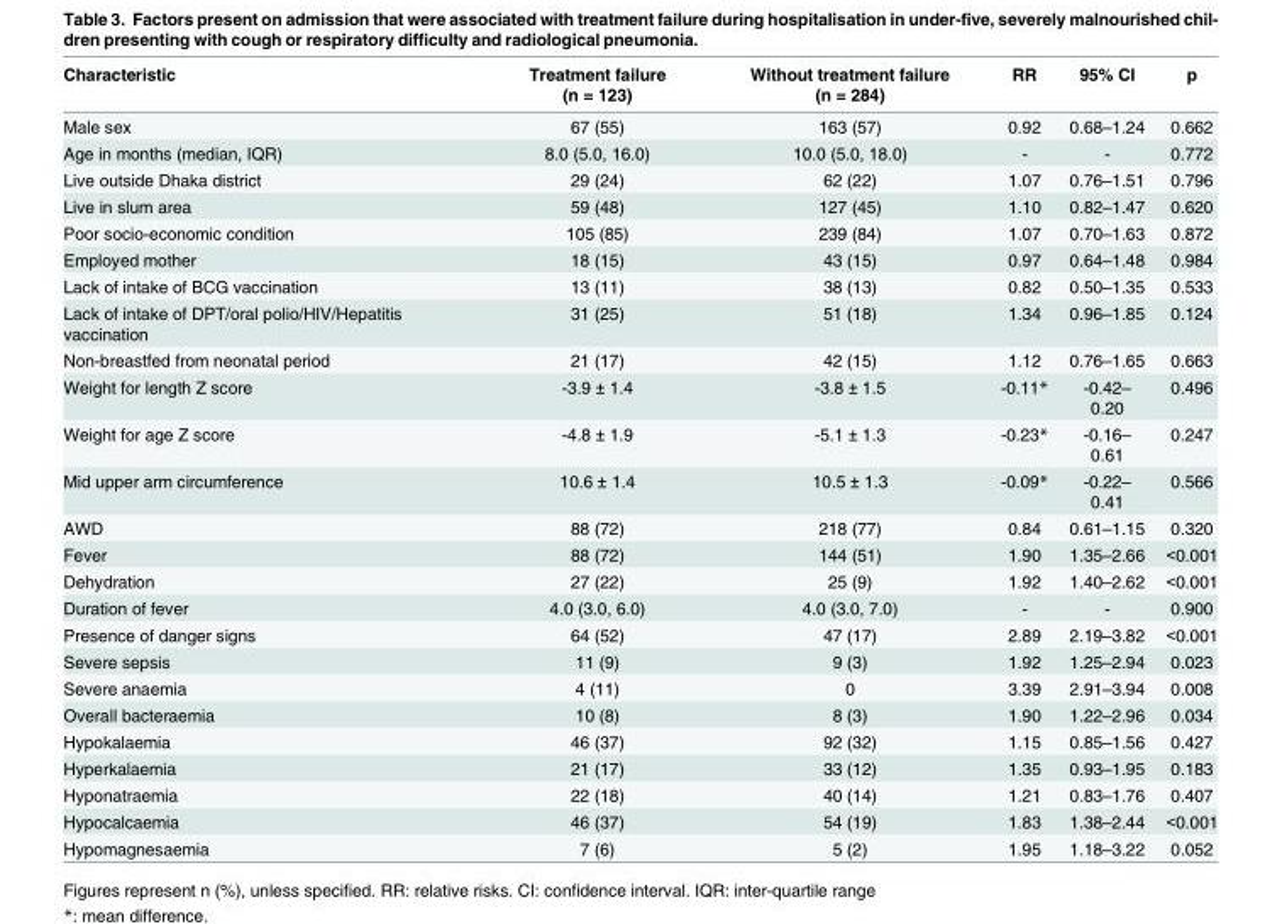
<table><thead><tr><td>Characteristic</td><td>Treatment failure (n = 123)</td><td>Without treatment failure (n = 284)</td><td>RR</td><td>95% CI</td><td>p</td></tr></thead><tbody><tr><td>Male sex</td><td>67 (55)</td><td>163 (57)</td><td>0.92</td><td>0.68–1.24</td><td>0.662</td></tr><tr><td>Age in months (median, IQR)</td><td>8.0 (5.0, 16.0)</td><td>10.0 (5.0, 18.0)</td><td>-</td><td>-</td><td>0.772</td></tr><tr><td>Live outside Dhaka district</td><td>29 (24)</td><td>62 (22)</td><td>1.07</td><td>0.76–1.51</td><td>0.796</td></tr><tr><td>Live in slum area</td><td>59 (48)</td><td>127 (45)</td><td>1.10</td><td>0.82–1.47</td><td>0.620</td></tr><tr><td>Poor socio-economic condition</td><td>105 (85)</td><td>239 (84)</td><td>1.07</td><td>0.70–1.63</td><td>0.872</td></tr><tr><td>Employed mother</td><td>18 (15)</td><td>43 (15)</td><td>0.97</td><td>0.64–1.48</td><td>0.984</td></tr><tr><td>Lack of intake of BCG vaccination</td><td>13 (11)</td><td>38 (13)</td><td>0.82</td><td>0.50–1.35</td><td>0.533</td></tr><tr><td>Lack of intake of DPT/oral polio/HIV/Hepatitis vaccination</td><td>31 (25)</td><td>51 (18)</td><td>1.34</td><td>0.96–1.85</td><td>0.124</td></tr><tr><td>Non-breastfed from neonatal period</td><td>21 (17)</td><td>42 (15)</td><td>1.12</td><td>0.76–1.65</td><td>0.663</td></tr><tr><td>Weight for length Z score</td><td>-3.9 ± 1.4</td><td>-3.8 ± 1.5</td><td>-0.11*</td><td>-0.42– 0.20</td><td>0.496</td></tr><tr><td>Weight for age Z score</td><td>-4.8 ± 1.9</td><td>-5.1 ± 1.3</td><td>-0.23*</td><td>-0.16– 0.61</td><td>0.247</td></tr><tr><td>Mid upper arm circumference</td><td>10.6 ± 1.4</td><td>10.5 ± 1.3</td><td>-0.09*</td><td>-0.22– 0.41</td><td>0.566</td></tr><tr><td>AWD</td><td>88 (72)</td><td>218 (77)</td><td>0.84</td><td>0.61–1.15</td><td>0.320</td></tr><tr><td>Fever</td><td>88 (72)</td><td>144 (51)</td><td>1.90</td><td>1.35–2.66</td><td>&lt;0.001</td></tr><tr><td>Dehydration</td><td>27 (22)</td><td>25 (9)</td><td>1.92</td><td>1.40–2.62</td><td>&lt;0.001</td></tr><tr><td>Duration of fever</td><td>4.0 (3.0, 6.0)</td><td>4.0 (3.0, 7.0)</td><td>-</td><td>-</td><td>0.900</td></tr><tr><td>Presence of danger signs</td><td>64 (52)</td><td>47 (17)</td><td>2.89</td><td>2.19–3.82</td><td>&lt;0.001</td></tr><tr><td>Severe sepsis</td><td>11 (9)</td><td>9 (3)</td><td>1.92</td><td>1.25–2.94</td><td>0.023</td></tr><tr><td>Severe anaemia</td><td>4 (11)</td><td>0</td><td>3.39</td><td>2.91–3.94</td><td>0.008</td></tr><tr><td>Overall bacteraemia</td><td>10 (8)</td><td>8 (3)</td><td>1.90</td><td>1.22–2.96</td><td>0.034</td></tr><tr><td>Hypokalaemia</td><td>46 (37)</td><td>92 (32)</td><td>1.15</td><td>0.85–1.56</td><td>0.427</td></tr><tr><td>Hyperkalaemia</td><td>21 (17)</td><td>33 (12)</td><td>1.35</td><td>0.93–1.95</td><td>0.183</td></tr><tr><td>Hyponatraemia</td><td>22 (18)</td><td>40 (14)</td><td>1.21</td><td>0.83–1.76</td><td>0.407</td></tr><tr><td>Hypocalcaemia</td><td>46 (37)</td><td>54 (19)</td><td>1.83</td><td>1.38–2.44</td><td>&lt;0.001</td></tr><tr><td>Hypomagnesaemia</td><td>7 (6)</td><td>5 (2)</td><td>1.95</td><td>1.18–3.22</td><td>0.052</td></tr></tbody></table>